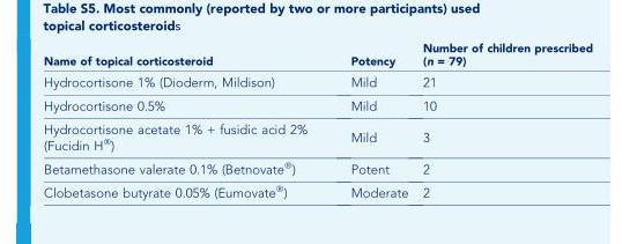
<table><thead><tr><td>Name of topical corticosteroid</td><td>Potency</td><td>Number of children prescribed (n = 79)</td></tr></thead><tbody><tr><td>Hydrocortisone 1% (Dioderm, Mildison)</td><td>Mild</td><td>21</td></tr><tr><td>Hydrocortisone 0.5%</td><td>Mild</td><td>10</td></tr><tr><td>Hydrocortisone acetate 1% + fusidic acid 2% (Fucidin H<sup>®</sup>)</td><td>Mild</td><td>3</td></tr><tr><td>Betamethasone valerate 0.1% (Betnovate<sup>®</sup>)</td><td>Potent</td><td>2</td></tr><tr><td>Clobetasone butyrate 0.05% (Eumovate<sup>®</sup>)</td><td>Moderate</td><td>2</td></tr></tbody></table>